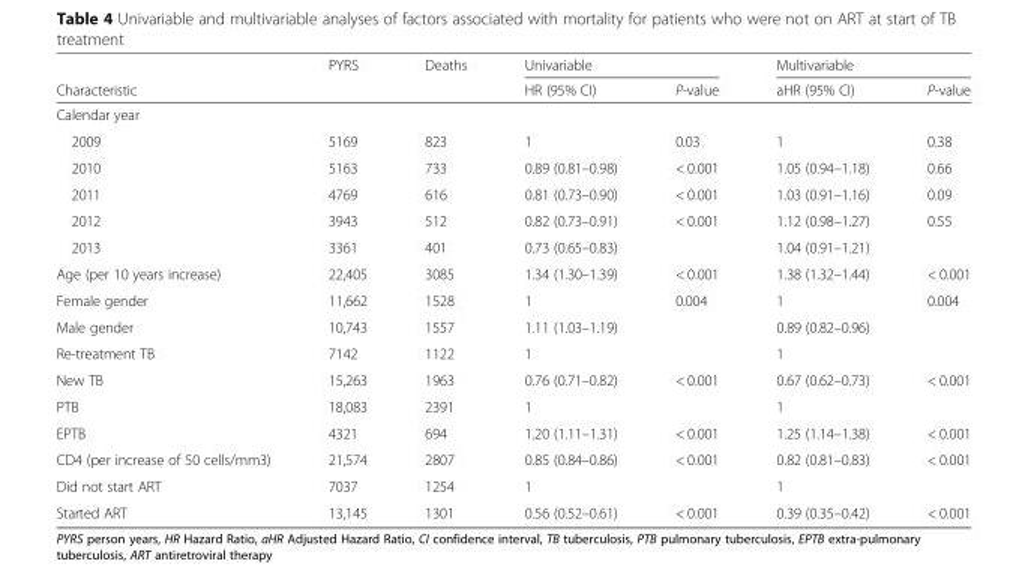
<table><thead><tr><td rowspan="2">Characteristic</td><td rowspan="2">PYRS</td><td rowspan="2">Deaths</td><td colspan="2">Univariable</td><td colspan="2">Multivariable</td></tr><tr><td>HR (95% CI)</td><td>P-value</td><td>aHR (95% CI)</td><td>P-value</td></tr></thead><tbody><tr><td colspan="7">Calendar year</td></tr><tr><td>2009</td><td>5169</td><td>823</td><td>1</td><td>0.03</td><td>1</td><td>0.38</td></tr><tr><td>2010</td><td>5163</td><td>733</td><td>0.89 (0.81–0.98)</td><td>&lt; 0.001</td><td>1.05 (0.94–1.18)</td><td>0.66</td></tr><tr><td>2011</td><td>4769</td><td>616</td><td>0.81 (0.73–0.90)</td><td>&lt; 0.001</td><td>1.03 (0.91–1.16)</td><td>0.09</td></tr><tr><td>2012</td><td>3943</td><td>512</td><td>0.82 (0.73–0.91)</td><td>&lt; 0.001</td><td>1.12 (0.98–1.27)</td><td>0.55</td></tr><tr><td>2013</td><td>3361</td><td>401</td><td>0.73 (0.65–0.83)</td><td></td><td>1.04 (0.91–1.21)</td><td></td></tr><tr><td>Age (per 10 years increase)</td><td>22,405</td><td>3085</td><td>1.34 (1.30–1.39)</td><td>&lt; 0.001</td><td>1.38 (1.32–1.44)</td><td>&lt; 0.001</td></tr><tr><td>Female gender</td><td>11,662</td><td>1528</td><td>1</td><td>0.004</td><td>1</td><td>0.004</td></tr><tr><td>Male gender</td><td>10,743</td><td>1557</td><td>1.11 (1.03–1.19)</td><td></td><td>0.89 (0.82–0.96)</td><td></td></tr><tr><td>Re-treatment TB</td><td>7142</td><td>1122</td><td>1</td><td></td><td>1</td><td></td></tr><tr><td>New TB</td><td>15,263</td><td>1963</td><td>0.76 (0.71–0.82)</td><td>&lt; 0.001</td><td>0.67 (0.62–0.73)</td><td>&lt; 0.001</td></tr><tr><td>PTB</td><td>18,083</td><td>2391</td><td>1</td><td></td><td>1</td><td></td></tr><tr><td>EPTB</td><td>4321</td><td>694</td><td>1.20 (1.11–1.31)</td><td>&lt; 0.001</td><td>1.25 (1.14–1.38)</td><td>&lt; 0.001</td></tr><tr><td>CD4 (per increase of 50 cells/mm3)</td><td>21,574</td><td>2807</td><td>0.85 (0.84–0.86)</td><td>&lt; 0.001</td><td>0.82 (0.81–0.83)</td><td>&lt; 0.001</td></tr><tr><td>Did not start ART</td><td>7037</td><td>1254</td><td>1</td><td></td><td>1</td><td></td></tr><tr><td>Started ART</td><td>13,145</td><td>1301</td><td>0.56 (0.52–0.61)</td><td>&lt; 0.001</td><td>0.39 (0.35–0.42)</td><td>&lt; 0.001</td></tr></tbody></table>